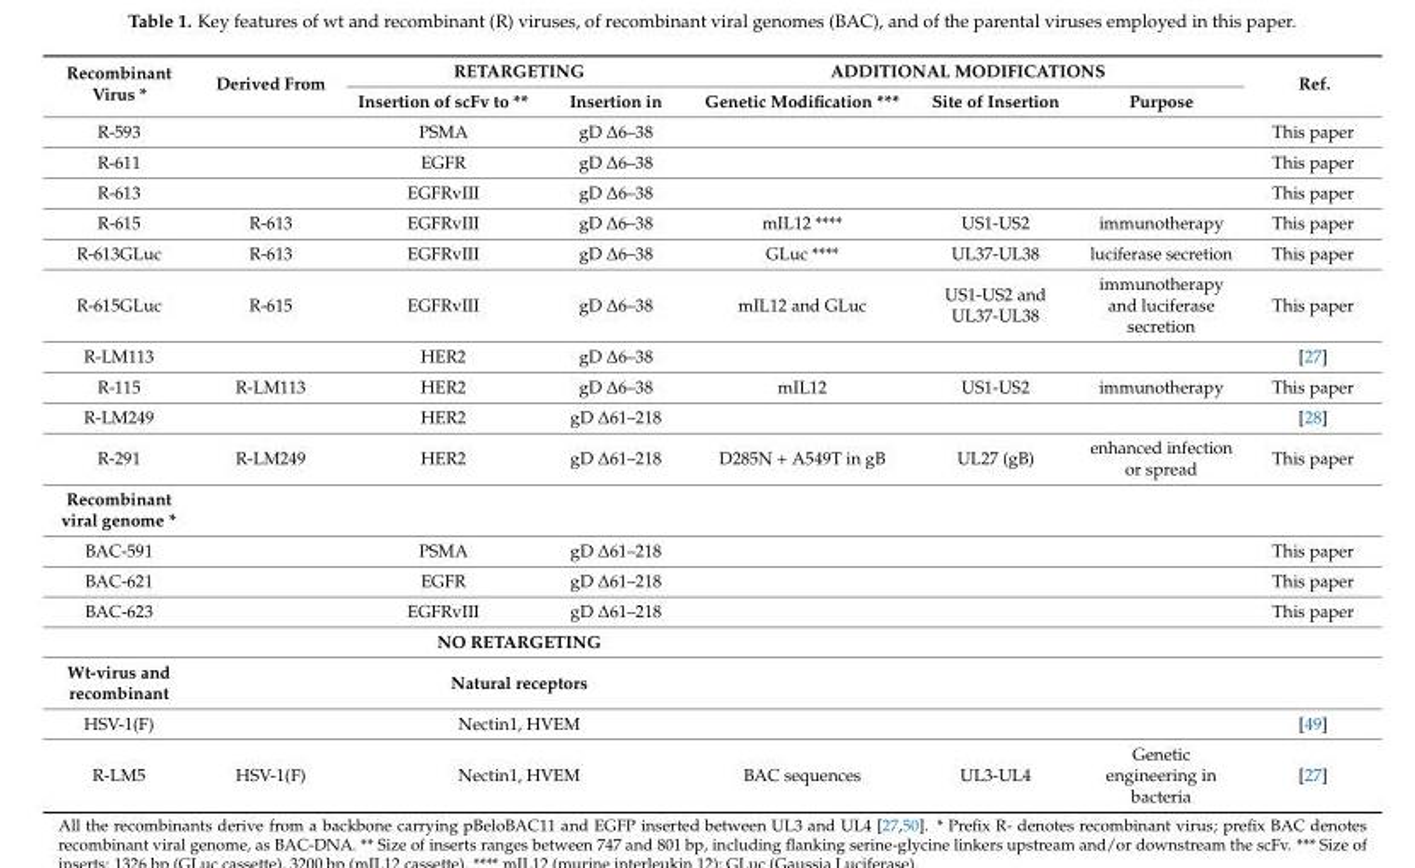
<table><thead><tr><td rowspan="2">Recombinant Virus *</td><td rowspan="2">Derived From</td><td colspan="2">RETARGETING</td><td colspan="3">ADDITIONAL MODIFICATIONS</td><td rowspan="2">Ref.</td></tr><tr><td>Insertion of scFv to **</td><td>Insertion in</td><td>Genetic Modification ***</td><td>Site of Insertion</td><td>Purpose</td></tr></thead><tbody><tr><td>R-593</td><td></td><td>PSMA</td><td>gD ∆6–38</td><td></td><td></td><td></td><td>This paper</td></tr><tr><td>R-611</td><td></td><td>EGFR</td><td>gD ∆6–38</td><td></td><td></td><td></td><td>This paper</td></tr><tr><td>R-613</td><td></td><td>EGFRvIII</td><td>gD ∆6–38</td><td></td><td></td><td></td><td>This paper</td></tr><tr><td>R-615</td><td>R-613</td><td>EGFRvIII</td><td>gD ∆6–38</td><td>mIL12 ****</td><td>US1-US2</td><td>immunotherapy</td><td>This paper</td></tr><tr><td>R-613GLuc</td><td>R-613</td><td>EGFRvIII</td><td>gD ∆6–38</td><td>GLuc ****</td><td>UL37-UL38</td><td>luciferase secretion</td><td>This paper</td></tr><tr><td>R-615GLuc</td><td>R-615</td><td>EGFRvIII</td><td>gD ∆6–38</td><td>mIL12 and GLuc</td><td>US1-US2 and UL37-UL38</td><td>immunotherapy and luciferase secretion</td><td>This paper</td></tr><tr><td>R-LM113</td><td></td><td>HER2</td><td>gD ∆6–38</td><td></td><td></td><td></td><td>[27]</td></tr><tr><td>R-115</td><td>R-LM113</td><td>HER2</td><td>gD ∆6–38</td><td>mIL12</td><td>US1-US2</td><td>immunotherapy</td><td>This paper</td></tr><tr><td>R-LM249</td><td></td><td>HER2</td><td>gD ∆61–218</td><td></td><td></td><td></td><td>[28]</td></tr><tr><td>R-291</td><td>R-LM249</td><td>HER2</td><td>gD ∆61–218</td><td>D285N + A549T in gB</td><td>UL27 (gB)</td><td>enhanced infection or spread</td><td>This paper</td></tr><tr><td colspan="8">Recombinant viral genome *</td></tr><tr><td>BAC-591</td><td></td><td>PSMA</td><td>gD ∆61–218</td><td></td><td></td><td></td><td>This paper</td></tr><tr><td>BAC-621</td><td></td><td>EGFR</td><td>gD ∆61–218</td><td></td><td></td><td></td><td>This paper</td></tr><tr><td rowspan="2">BAC-623</td><td></td><td>EGFRvIII</td><td>gD ∆61–218</td><td></td><td></td><td></td><td>This paper</td></tr><tr><td></td><td colspan="2">NO RETARGETING</td><td></td><td></td><td></td><td></td></tr><tr><td>Wt-virus and recombinant</td><td></td><td colspan="2">Natural receptors</td><td></td><td></td><td></td><td></td></tr><tr><td>HSV-1(F)</td><td></td><td colspan="2">Nectin1, HVEM</td><td></td><td></td><td></td><td>[49]</td></tr><tr><td>R-LM5</td><td>HSV-1(F)</td><td colspan="2">Nectin1, HVEM</td><td>BAC sequences</td><td>UL3-UL4</td><td>Genetic engineering in bacteria</td><td>[27]</td></tr></tbody></table>